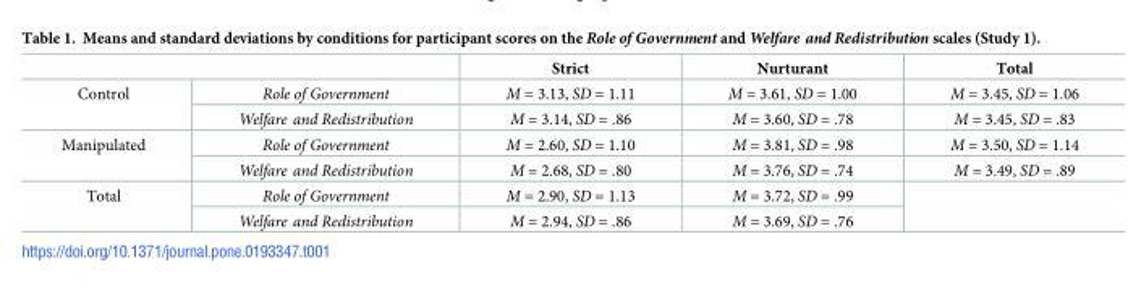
<table><thead><tr><td></td><td></td><td>Strict</td><td>Nurturant</td><td>Total</td></tr></thead><tbody><tr><td rowspan="2">Control</td><td>Role of Government</td><td>M = 3.13, SD = 1.11</td><td>M = 3.61, SD = 1.00</td><td>M = 3.45, SD = 1.06</td></tr><tr><td>Welfare and Redistribution</td><td>M = 3.14, SD = .86</td><td>M = 3.60, SD = .78</td><td>M = 3.45, SD = .83</td></tr><tr><td rowspan="2">Manipulated</td><td>Role of Government</td><td>M = 2.60, SD = 1.10</td><td>M = 3.81, SD = .98</td><td>M = 3.50, SD = 1.14</td></tr><tr><td>Welfare and Redistribution</td><td>M = 2.68, SD = .80</td><td>M = 3.76, SD = .74</td><td>M = 3.49, SD = .89</td></tr><tr><td rowspan="2">Total</td><td>Role of Government</td><td>M = 2.90, SD = 1.13</td><td>M = 3.72, SD = .99</td><td rowspan="2"></td></tr><tr><td>Welfare and Redistribution</td><td>M = 2.94, SD = .86</td><td>M = 3.69, SD = .76</td></tr></tbody></table>